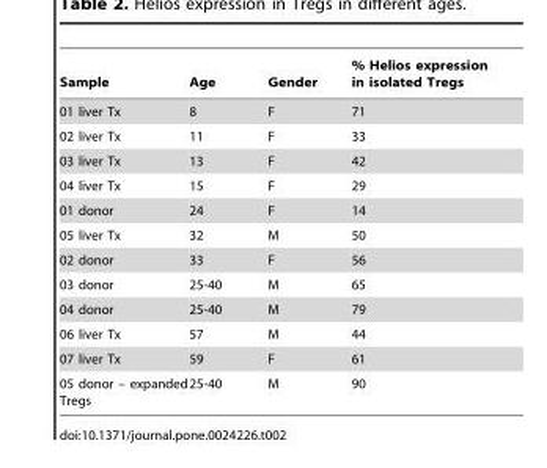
<table><thead><tr><td>Sample</td><td>Age</td><td>Gender</td><td>% Helios expression in isolated Tregs</td></tr></thead><tbody><tr><td>01 liver Tx</td><td>8</td><td>F</td><td>71</td></tr><tr><td>02 liver Tx</td><td>11</td><td>F</td><td>33</td></tr><tr><td>03 liver Tx</td><td>13</td><td>F</td><td>42</td></tr><tr><td>04 liver Tx</td><td>15</td><td>F</td><td>29</td></tr><tr><td>01 donor</td><td>24</td><td>F</td><td>14</td></tr><tr><td>05 liver Tx</td><td>32</td><td>M</td><td>50</td></tr><tr><td>02 donor</td><td>33</td><td>F</td><td>56</td></tr><tr><td>03 donor</td><td>25-40</td><td>M</td><td>65</td></tr><tr><td>04 donor</td><td>25-40</td><td>M</td><td>79</td></tr><tr><td>06 liver Tx</td><td>57</td><td>M</td><td>44</td></tr><tr><td>07 liver Tx</td><td>59</td><td>F</td><td>61</td></tr><tr><td>05 donor – expanded Tregs</td><td>25-40</td><td>M</td><td>90</td></tr></tbody></table>